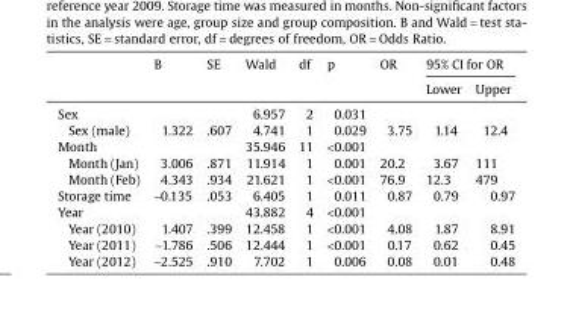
<table><thead><tr><td rowspan="2"></td><td rowspan="2">B</td><td rowspan="2">SE</td><td rowspan="2">Wald</td><td rowspan="2">df</td><td rowspan="2">p</td><td rowspan="2">OR</td><td colspan="2">95% CI for OR</td></tr><tr><td>Lower</td><td>Upper</td></tr></thead><tbody><tr><td>Sex</td><td></td><td></td><td>6.957</td><td>2</td><td>0.031</td><td></td><td></td><td></td></tr><tr><td>Sex (male)</td><td>1.322</td><td>.607</td><td>4.741</td><td>1</td><td>0.029</td><td>3.75</td><td>1.14</td><td>12.4</td></tr><tr><td>Month</td><td></td><td></td><td>35.946</td><td>11</td><td>&lt;0.001</td><td></td><td></td><td></td></tr><tr><td>Month (Jan)</td><td>3.006</td><td>.871</td><td>11.914</td><td>1</td><td>0.001</td><td>20.2</td><td>3.67</td><td>111</td></tr><tr><td>Month (Feb)</td><td>4.343</td><td>.934</td><td>21.621</td><td>1</td><td>&lt;0.001</td><td>76.9</td><td>12.3</td><td>479</td></tr><tr><td>Storage time</td><td>−0.135</td><td>.053</td><td>6.405</td><td>1</td><td>0.011</td><td>0.87</td><td>0.79</td><td>0.97</td></tr><tr><td>Year</td><td></td><td></td><td>43.882</td><td>4</td><td>&lt;0.001</td><td></td><td></td><td></td></tr><tr><td>Year (2010)</td><td>1.407</td><td>.399</td><td>12.458</td><td>1</td><td>&lt;0.001</td><td>4.08</td><td>1.87</td><td>8.91</td></tr><tr><td>Year (2011)</td><td>−1.786</td><td>.506</td><td>12.444</td><td>1</td><td>&lt;0.001</td><td>0.17</td><td>0.62</td><td>0.45</td></tr><tr><td>Year (2012)</td><td>−2.525</td><td>.910</td><td>7.702</td><td>1</td><td>0.006</td><td>0.08</td><td>0.01</td><td>0.48</td></tr></tbody></table>